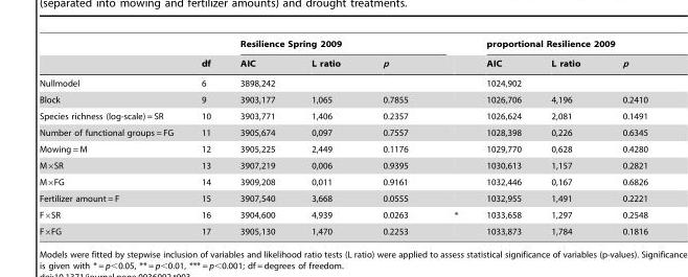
<table><thead><tr><td rowspan="2"></td><td rowspan="2">df</td><td colspan="3">Resilience Spring 2009</td><td rowspan="2"></td><td colspan="3">proportional Resilience 2009</td></tr><tr><td>AIC</td><td>L ratio</td><td>p</td><td>AIC</td><td>L ratio</td><td>p</td></tr></thead><tbody><tr><td>Nullmodel</td><td>6</td><td>3898,242</td><td></td><td></td><td></td><td>1024,902</td><td></td><td></td></tr><tr><td>Block</td><td>9</td><td>3903,177</td><td>1,065</td><td>0.7855</td><td></td><td>1026,706</td><td>4,196</td><td>0.2410</td></tr><tr><td>Species richness (log-scale) = SR</td><td>10</td><td>3903,771</td><td>1,406</td><td>0.2357</td><td></td><td>1026,624</td><td>2,081</td><td>0.1491</td></tr><tr><td>Number of functional groups = FG</td><td>11</td><td>3905,674</td><td>0,097</td><td>0.7557</td><td></td><td>1028,398</td><td>0,226</td><td>0.6345</td></tr><tr><td>Mowing = M</td><td>12</td><td>3905,225</td><td>2,449</td><td>0.1176</td><td></td><td>1029,770</td><td>0,628</td><td>0.4280</td></tr><tr><td>M×SR</td><td>13</td><td>3907,219</td><td>0,006</td><td>0.9395</td><td></td><td>1030,613</td><td>1,157</td><td>0.2821</td></tr><tr><td>M×FG</td><td>14</td><td>3909,208</td><td>0,011</td><td>0.9161</td><td></td><td>1032,446</td><td>0,167</td><td>0.6826</td></tr><tr><td>Fertilizer amount = F</td><td>15</td><td>3907,540</td><td>3,668</td><td>0.0555</td><td></td><td>1032,955</td><td>1,491</td><td>0.2221</td></tr><tr><td>F×SR</td><td>16</td><td>3904,600</td><td>4,939</td><td>0.0263</td><td>*</td><td>1033,658</td><td>1,297</td><td>0.2548</td></tr><tr><td>F×FG</td><td>17</td><td>3905,130</td><td>1,470</td><td>0.2253</td><td></td><td>1033,873</td><td>1,784</td><td>0.1816</td></tr></tbody></table>